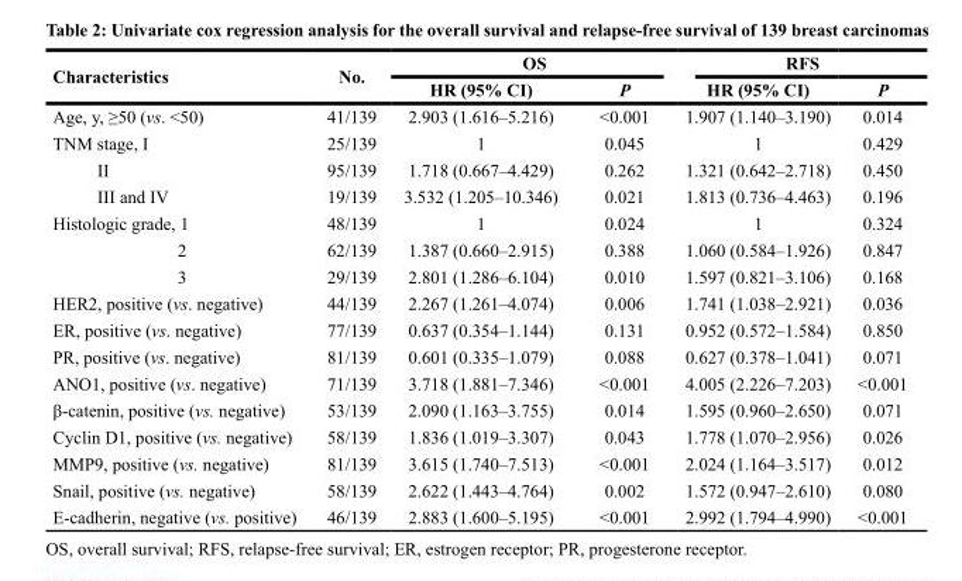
<table><thead><tr><td rowspan="2">Characteristics</td><td rowspan="2">No.</td><td colspan="2">OS</td><td colspan="2">RFS</td></tr><tr><td>HR (95% CI)</td><td>P</td><td>HR (95% CI)</td><td>P</td></tr></thead><tbody><tr><td>Age, y, ≥50 (vs. &lt;50)</td><td>41/139</td><td>2.903 (1.616–5.216)</td><td>&lt;0.001</td><td>1.907 (1.140–3.190)</td><td>0.014</td></tr><tr><td>TNM stage, I</td><td>25/139</td><td>1</td><td>0.045</td><td>1</td><td>0.429</td></tr><tr><td>II</td><td>95/139</td><td>1.718 (0.667–4.429)</td><td>0.262</td><td>1.321 (0.642–2.718)</td><td>0.450</td></tr><tr><td>III and IV</td><td>19/139</td><td>3.532 (1.205–10.346)</td><td>0.021</td><td>1.813 (0.736–4.463)</td><td>0.196</td></tr><tr><td>Histologic grade, 1</td><td>48/139</td><td>1</td><td>0.024</td><td>1</td><td>0.324</td></tr><tr><td>2</td><td>62/139</td><td>1.387 (0.660–2.915)</td><td>0.388</td><td>1.060 (0.584–1.926)</td><td>0.847</td></tr><tr><td>3</td><td>29/139</td><td>2.801 (1.286–6.104)</td><td>0.010</td><td>1.597 (0.821–3.106)</td><td>0.168</td></tr><tr><td>HER2, positive (vs. negative)</td><td>44/139</td><td>2.267 (1.261–4.074)</td><td>0.006</td><td>1.741 (1.038–2.921)</td><td>0.036</td></tr><tr><td>ER, positive (vs. negative)</td><td>77/139</td><td>0.637 (0.354–1.144)</td><td>0.131</td><td>0.952 (0.572–1.584)</td><td>0.850</td></tr><tr><td>PR, positive (vs. negative)</td><td>81/139</td><td>0.601 (0.335–1.079)</td><td>0.088</td><td>0.627 (0.378–1.041)</td><td>0.071</td></tr><tr><td>ANO1, positive (vs. negative)</td><td>71/139</td><td>3.718 (1.881–7.346)</td><td>&lt;0.001</td><td>4.005 (2.226–7.203)</td><td>&lt;0.001</td></tr><tr><td>β-catenin, positive (vs. negative)</td><td>53/139</td><td>2.090 (1.163–3.755)</td><td>0.014</td><td>1.595 (0.960–2.650)</td><td>0.071</td></tr><tr><td>Cyclin D1, positive (vs. negative)</td><td>58/139</td><td>1.836 (1.019–3.307)</td><td>0.043</td><td>1.778 (1.070–2.956)</td><td>0.026</td></tr><tr><td>MMP9, positive (vs. negative)</td><td>81/139</td><td>3.615 (1.740–7.513)</td><td>&lt;0.001</td><td>2.024 (1.164–3.517)</td><td>0.012</td></tr><tr><td>Snail, positive (vs. negative)</td><td>58/139</td><td>2.622 (1.443–4.764)</td><td>0.002</td><td>1.572 (0.947–2.610)</td><td>0.080</td></tr><tr><td>E-cadherin, negative (vs. positive)</td><td>46/139</td><td>2.883 (1.600–5.195)</td><td>&lt;0.001</td><td>2.992 (1.794–4.990)</td><td>&lt;0.001</td></tr></tbody></table>